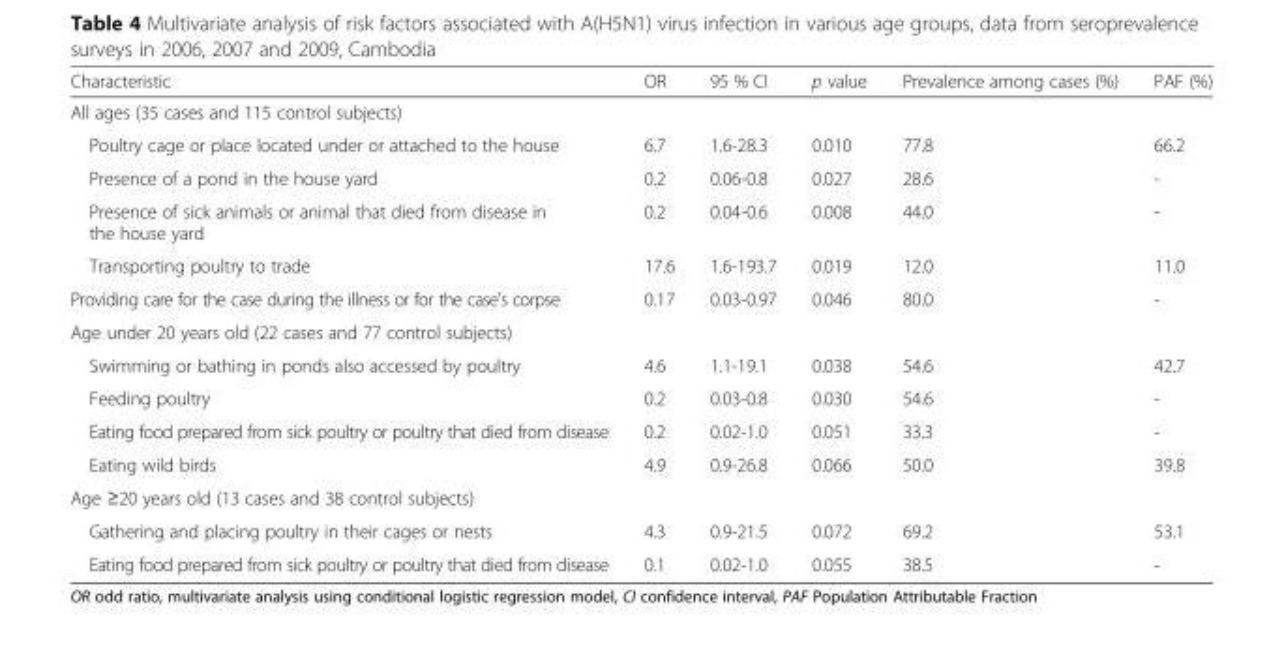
<table><thead><tr><td>Characteristic</td><td>OR</td><td>95 % CI</td><td>p value</td><td>Prevalence among cases (%)</td><td>PAF (%)</td></tr></thead><tbody><tr><td colspan="6">All ages (35 cases and 115 control subjects)</td></tr><tr><td>Poultry cage or place located under or attached to the house</td><td>6.7</td><td>1.6-28.3</td><td>0.010</td><td>77.8</td><td>66.2</td></tr><tr><td>Presence of a pond in the house yard</td><td>0.2</td><td>0.06-0.8</td><td>0.027</td><td>28.6</td><td>-</td></tr><tr><td>Presence of sick animals or animal that died from disease in the house yard</td><td>0.2</td><td>0.04-0.6</td><td>0.008</td><td>44.0</td><td>-</td></tr><tr><td>Transporting poultry to trade</td><td>17.6</td><td>1.6-193.7</td><td>0.019</td><td>12.0</td><td>11.0</td></tr><tr><td>Providing care for the case during the illness or for the case&#x27;s corpse</td><td>0.17</td><td>0.03-0.97</td><td>0.046</td><td>80.0</td><td>-</td></tr><tr><td colspan="6">Age under 20 years old (22 cases and 77 control subjects)</td></tr><tr><td>Swimming or bathing in ponds also accessed by poultry</td><td>4.6</td><td>1.1-19.1</td><td>0.038</td><td>54.6</td><td>42.7</td></tr><tr><td>Feeding poultry</td><td>0.2</td><td>0.03-0.8</td><td>0.030</td><td>54.6</td><td>-</td></tr><tr><td>Eating food prepared from sick poultry or poultry that died from disease</td><td>0.2</td><td>0.02-1.0</td><td>0.051</td><td>33.3</td><td>-</td></tr><tr><td>Eating wild birds</td><td>4.9</td><td>0.9-26.8</td><td>0.066</td><td>50.0</td><td>39.8</td></tr><tr><td colspan="6">Age ≥20 years old (13 cases and 38 control subjects)</td></tr><tr><td>Gathering and placing poultry in their cages or nests</td><td>4.3</td><td>0.9-21.5</td><td>0.072</td><td>69.2</td><td>53.1</td></tr><tr><td>Eating food prepared from sick poultry or poultry that died from disease</td><td>0.1</td><td>0.02-1.0</td><td>0.055</td><td>38.5</td><td>-</td></tr></tbody></table>